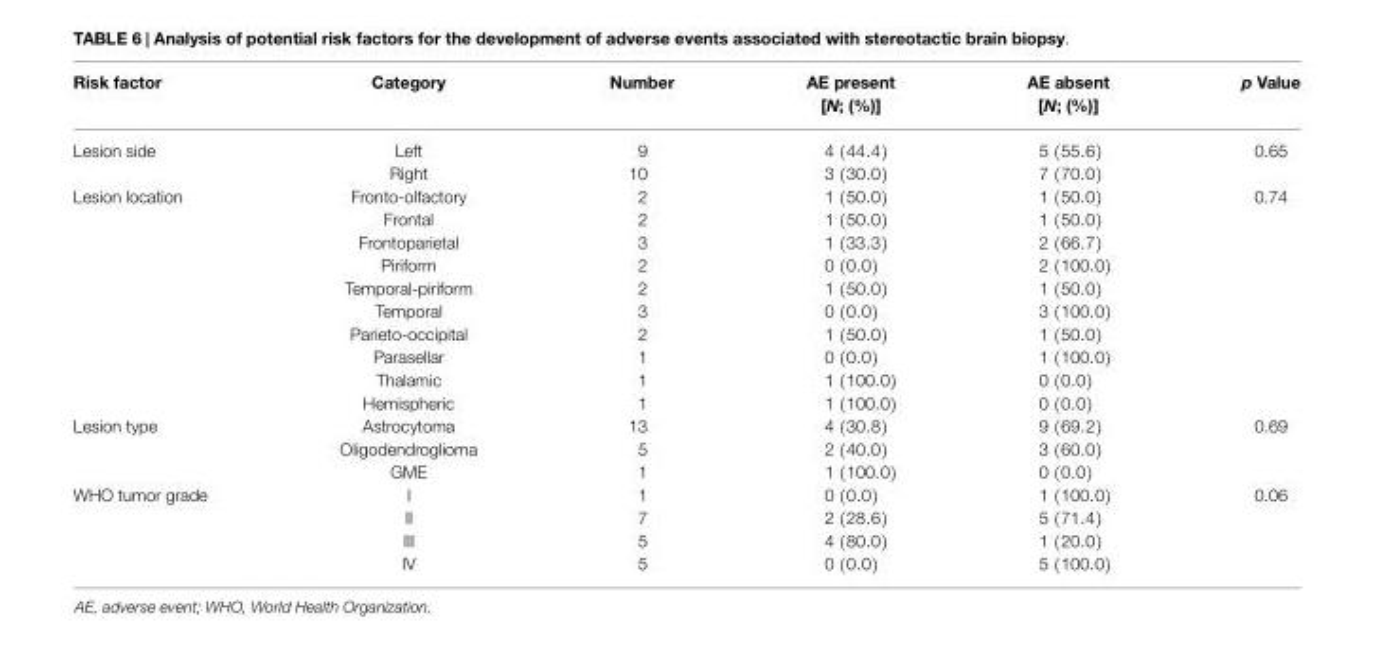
<table><thead><tr><td>Risk factor</td><td>Category</td><td>Number</td><td>AE present [N; (%)]</td><td>AE absent [N; (%)]</td><td>p Value</td></tr></thead><tbody><tr><td rowspan="2">Lesion side</td><td>Left</td><td>9</td><td>4 (44.4)</td><td>5 (55.6)</td><td>0.65</td></tr><tr><td>Right</td><td>10</td><td>3 (30.0)</td><td>7 (70.0)</td><td></td></tr><tr><td rowspan="10">Lesion location</td><td>Fronto-olfactory</td><td>2</td><td>1 (50.0)</td><td>1 (50.0)</td><td>0.74</td></tr><tr><td>Frontal</td><td>2</td><td>1 (50.0)</td><td>1 (50.0)</td><td></td></tr><tr><td>Frontoparietal</td><td>3</td><td>1 (33.3)</td><td>2 (66.7)</td><td></td></tr><tr><td>Piriform</td><td>2</td><td>0 (0.0)</td><td>2 (100.0)</td><td></td></tr><tr><td>Temporal-piriform</td><td>2</td><td>1 (50.0)</td><td>1 (50.0)</td><td></td></tr><tr><td>Temporal</td><td>3</td><td>0 (0.0)</td><td>3 (100.0)</td><td></td></tr><tr><td>Parieto-occipital</td><td>2</td><td>1 (50.0)</td><td>1 (50.0)</td><td></td></tr><tr><td>Parasellar</td><td>1</td><td>0 (0.0)</td><td>1 (100.0)</td><td></td></tr><tr><td>Thalamic</td><td>1</td><td>1 (100.0)</td><td>0 (0.0)</td><td></td></tr><tr><td>Hemispheric</td><td>1</td><td>1 (100.0)</td><td>0 (0.0)</td><td></td></tr><tr><td rowspan="3">Lesion type</td><td>Astrocytoma</td><td>13</td><td>4 (30.8)</td><td>9 (69.2)</td><td>0.69</td></tr><tr><td>Oligodendroglioma</td><td>5</td><td>2 (40.0)</td><td>3 (60.0)</td><td></td></tr><tr><td>GME</td><td>1</td><td>1 (100.0)</td><td>0 (0.0)</td><td></td></tr><tr><td rowspan="4">WHO tumor grade</td><td>I</td><td>1</td><td>0 (0.0)</td><td>1 (100.0)</td><td>0.06</td></tr><tr><td>II</td><td>7</td><td>2 (28.6)</td><td>5 (71.4)</td><td></td></tr><tr><td>III</td><td>5</td><td>4 (80.0)</td><td>1 (20.0)</td><td></td></tr><tr><td>IV</td><td>5</td><td>0 (0.0)</td><td>5 (100.0)</td><td></td></tr></tbody></table>